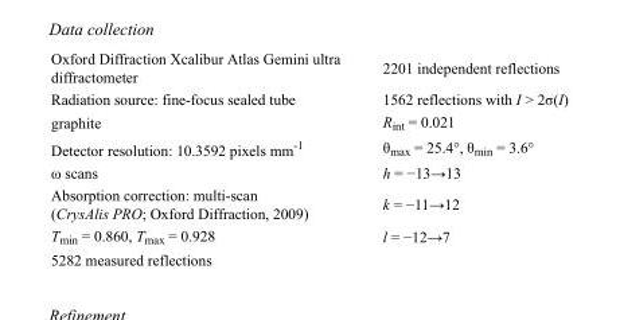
<table><tbody><tr><td>Oxford Diffraction Xcalibur Atlas Gemini ultra diffractometer</td><td>2201 independent reflections</td></tr><tr><td>Radiation source: fine-focus sealed tube</td><td>1562 reflections with I &gt; 2σ(I)</td></tr><tr><td>graphite</td><td>R<sub>int</sub> = 0.021</td></tr><tr><td>Detector resolution: 10.3592 pixels mm<sup>-1</sup></td><td>θ<sub>max</sub> = 25.4°, θ<sub>min</sub> = 3.6°</td></tr><tr><td>ω scans</td><td>h = −13→13</td></tr><tr><td>Absorption correction: multi-scan (CrysAlis PRO; Oxford Diffraction, 2009)</td><td>k = −11→12</td></tr><tr><td>T<sub>min</sub> = 0.860, T<sub>max</sub> = 0.928</td><td>l = −12→7</td></tr><tr><td>5282 measured reflections</td><td></td></tr></tbody></table>